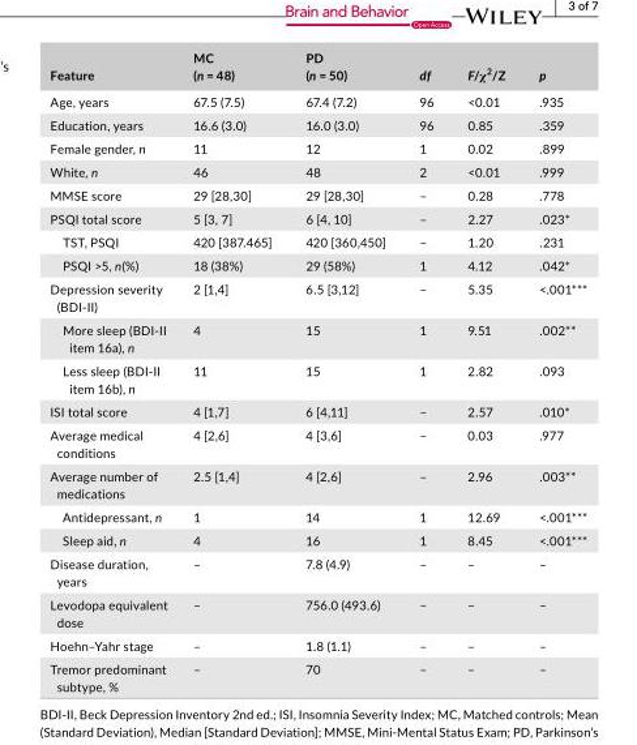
<table><thead><tr><td>Feature</td><td>MC (n = 48)</td><td>PD (n = 50)</td><td>df</td><td>F/χ<sup>2</sup>/Z</td><td>p</td></tr></thead><tbody><tr><td>Age, years</td><td>67.5 (7.5)</td><td>67.4 (7.2)</td><td>96</td><td>&lt;0.01</td><td>.935</td></tr><tr><td>Education, years</td><td>16.6 (3.0)</td><td>16.0 (3.0)</td><td>96</td><td>0.85</td><td>.359</td></tr><tr><td>Female gender, n</td><td>11</td><td>12</td><td>1</td><td>0.02</td><td>.899</td></tr><tr><td>White, n</td><td>46</td><td>48</td><td>2</td><td>&lt;0.01</td><td>.999</td></tr><tr><td>MMSE score</td><td>29 [28,30]</td><td>29 [28,30]</td><td>–</td><td>0.28</td><td>.778</td></tr><tr><td>PSQI total score</td><td>5 [3, 7]</td><td>6 [4, 10]</td><td>–</td><td>2.27</td><td>.023*</td></tr><tr><td>TST, PSQI</td><td>420 [387.465]</td><td>420 [360,450]</td><td>–</td><td>1.20</td><td>.231</td></tr><tr><td>PSQI &gt;5, n(%)</td><td>18 (38%)</td><td>29 (58%)</td><td>1</td><td>4.12</td><td>.042*</td></tr><tr><td>Depression severity (BDI- II)</td><td>2 [1,4]</td><td>6.5 [3,12]</td><td>–</td><td>5.35</td><td>&lt;.001***</td></tr><tr><td>More sleep (BDI- II item 16a), n</td><td>4</td><td>15</td><td>1</td><td>9.51</td><td>.002**</td></tr><tr><td>Less sleep (BDI- II item 16b), n</td><td>11</td><td>15</td><td>1</td><td>2.82</td><td>.093</td></tr><tr><td>ISI total score</td><td>4 [1,7]</td><td>6 [4,11]</td><td>–</td><td>2.57</td><td>.010*</td></tr><tr><td>Average medical conditions</td><td>4 [2,6]</td><td>4 [3,6]</td><td>–</td><td>0.03</td><td>.977</td></tr><tr><td>Average number of medications</td><td>2.5 [1,4]</td><td>4 [2,6]</td><td>–</td><td>2.96</td><td>.003**</td></tr><tr><td>Antidepressant, n</td><td>1</td><td>14</td><td>1</td><td>12.69</td><td>&lt;.001***</td></tr><tr><td>Sleep aid, n</td><td>4</td><td>16</td><td>1</td><td>8.45</td><td>&lt;.001***</td></tr><tr><td>Disease duration, years</td><td>–</td><td>7.8 (4.9)</td><td>–</td><td>–</td><td>–</td></tr><tr><td>Levodopa equivalent dose</td><td>–</td><td>756.0 (493.6)</td><td>–</td><td>–</td><td>–</td></tr><tr><td>Hoehn–Yahr stage</td><td>–</td><td>1.8 (1.1)</td><td>–</td><td>–</td><td>–</td></tr><tr><td>Tremor predominant subtype, %</td><td>–</td><td>70</td><td>–</td><td>–</td><td>–</td></tr></tbody></table>